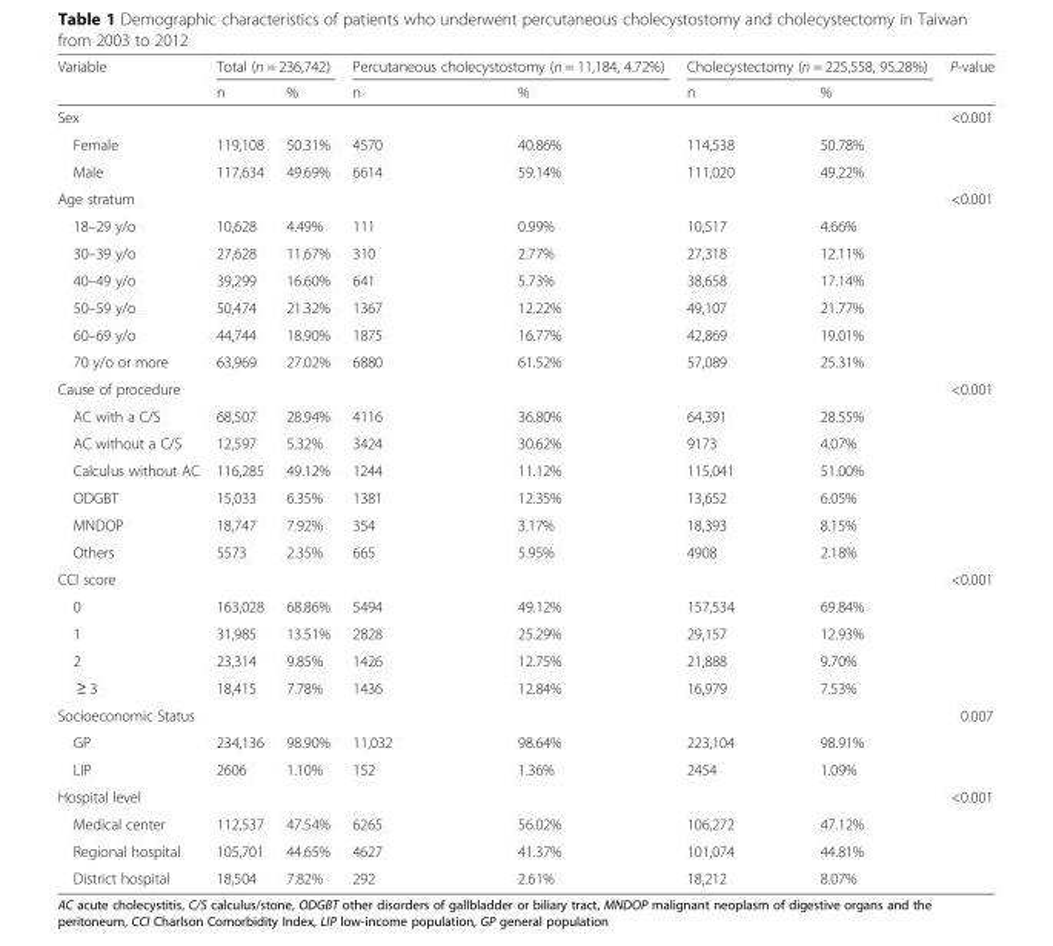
<table><thead><tr><td rowspan="2">Variable</td><td colspan="2">Total (n = 236,742)</td><td colspan="2">Percutaneous cholecystostomy (n = 11,184, 4.72%)</td><td colspan="2">Cholecystectomy (n = 225,558, 95.28%)</td><td rowspan="2">P-value</td></tr><tr><td>n</td><td>%</td><td>n</td><td>%</td><td>n</td><td>%</td></tr></thead><tbody><tr><td colspan="7">Sex</td><td rowspan="3">&lt;0.001</td></tr><tr><td>Female</td><td>119,108</td><td>50.31%</td><td>4570</td><td>40.86%</td><td>114,538</td><td>50.78%</td></tr><tr><td>Male</td><td>117,634</td><td>49.69%</td><td>6614</td><td>59.14%</td><td>111,020</td><td>49.22%</td></tr><tr><td colspan="7">Age stratum</td><td rowspan="7">&lt;0.001</td></tr><tr><td>18–29 y/o</td><td>10,628</td><td>4.49%</td><td>111</td><td>0.99%</td><td>10,517</td><td>4.66%</td></tr><tr><td>30–39 y/o</td><td>27,628</td><td>11.67%</td><td>310</td><td>2.77%</td><td>27,318</td><td>12.11%</td></tr><tr><td>40–49 y/o</td><td>39,299</td><td>16.60%</td><td>641</td><td>5.73%</td><td>38,658</td><td>17.14%</td></tr><tr><td>50–59 y/o</td><td>50,474</td><td>21.32%</td><td>1367</td><td>12.22%</td><td>49,107</td><td>21.77%</td></tr><tr><td>60–69 y/o</td><td>44,744</td><td>18.90%</td><td>1875</td><td>16.77%</td><td>42,869</td><td>19.01%</td></tr><tr><td>70 y/o or more</td><td>63,969</td><td>27.02%</td><td>6880</td><td>61.52%</td><td>57,089</td><td>25.31%</td></tr><tr><td colspan="7">Cause of procedure</td><td rowspan="7">&lt;0.001</td></tr><tr><td>AC with a C/S</td><td>68,507</td><td>28.94%</td><td>4116</td><td>36.80%</td><td>64,391</td><td>28.55%</td></tr><tr><td>AC without a C/S</td><td>12,597</td><td>5.32%</td><td>3424</td><td>30.62%</td><td>9173</td><td>4.07%</td></tr><tr><td>Calculus without AC</td><td>116,285</td><td>49.12%</td><td>1244</td><td>11.12%</td><td>115,041</td><td>51.00%</td></tr><tr><td>ODGBT</td><td>15,033</td><td>6.35%</td><td>1381</td><td>12.35%</td><td>13,652</td><td>6.05%</td></tr><tr><td>MNDOP</td><td>18,747</td><td>7.92%</td><td>354</td><td>3.17%</td><td>18,393</td><td>8.15%</td></tr><tr><td>Others</td><td>5573</td><td>2.35%</td><td>665</td><td>5.95%</td><td>4908</td><td>2.18%</td></tr><tr><td colspan="7">CCI score</td><td rowspan="5">&lt;0.001</td></tr><tr><td>0</td><td>163,028</td><td>68.86%</td><td>5494</td><td>49.12%</td><td>157,534</td><td>69.84%</td></tr><tr><td>1</td><td>31,985</td><td>13.51%</td><td>2828</td><td>25.29%</td><td>29,157</td><td>12.93%</td></tr><tr><td>2</td><td>23,314</td><td>9.85%</td><td>1426</td><td>12.75%</td><td>21,888</td><td>9.70%</td></tr><tr><td>≥ 3</td><td>18,415</td><td>7.78%</td><td>1436</td><td>12.84%</td><td>16,979</td><td>7.53%</td></tr><tr><td colspan="7">Socioeconomic Status</td><td rowspan="3">0.007</td></tr><tr><td>GP</td><td>234,136</td><td>98.90%</td><td>11,032</td><td>98.64%</td><td>223,104</td><td>98.91%</td></tr><tr><td>LIP</td><td>2606</td><td>1.10%</td><td>152</td><td>1.36%</td><td>2454</td><td>1.09%</td></tr><tr><td colspan="7">Hospital level</td><td rowspan="4">&lt;0.001</td></tr><tr><td>Medical center</td><td>112,537</td><td>47.54%</td><td>6265</td><td>56.02%</td><td>106,272</td><td>47.12%</td></tr><tr><td>Regional hospital</td><td>105,701</td><td>44.65%</td><td>4627</td><td>41.37%</td><td>101,074</td><td>44.81%</td></tr><tr><td>District hospital</td><td>18,504</td><td>7.82%</td><td>292</td><td>2.61%</td><td>18,212</td><td>8.07%</td></tr></tbody></table>